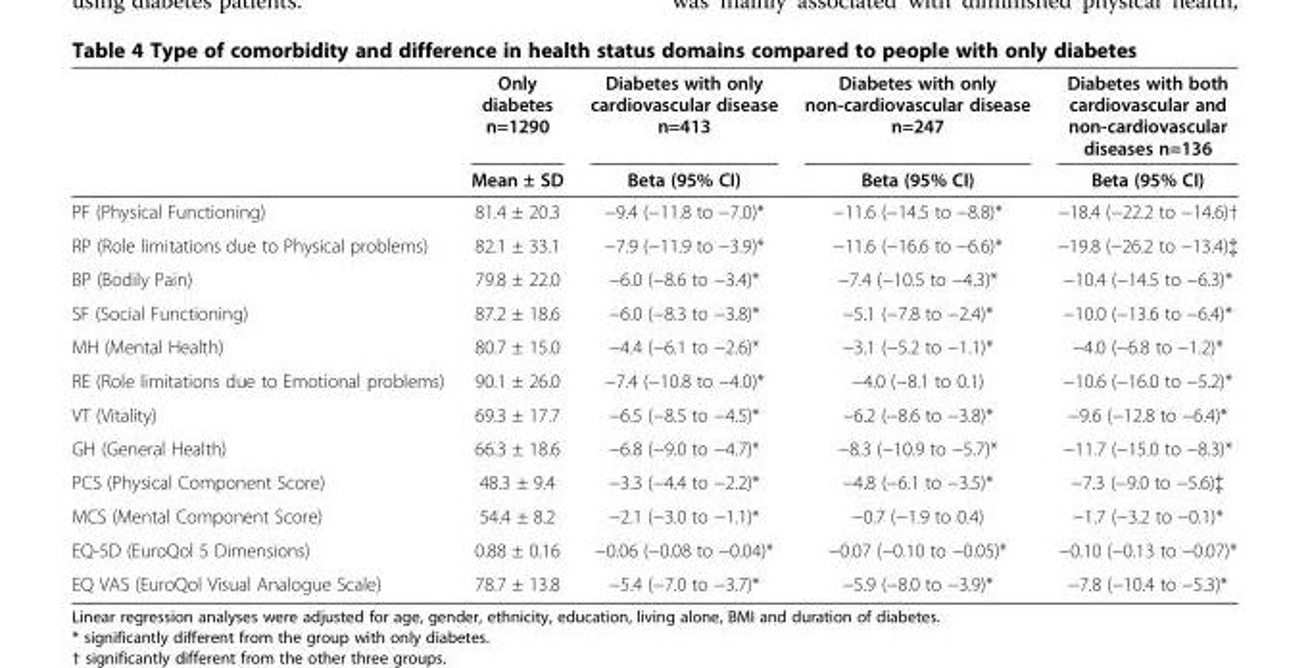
<table><thead><tr><td rowspan="2"></td><td rowspan="2">Only diabetes n=1290 Mean ± SD</td><td rowspan="2">Diabetes with only cardiovascular disease n=413 Beta (95% CI)</td><td rowspan="2">Diabetes with only non-cardiovascular disease n=247 Beta (95% CI)</td><td rowspan="2">Diabetes with both cardiovascular and non-cardiovascular diseases n=136 Beta (95% CI)</td></tr><tr></tr></thead><tbody><tr><td>PF (Physical Functioning)</td><td>81.4 ± 20.3</td><td>−9.4 (−11.8 to −7.0)*</td><td>−11.6 (−14.5 to −8.8)*</td><td>−18.4 (−22.2 to −14.6)†</td></tr><tr><td>RP (Role limitations due to Physical problems)</td><td>82.1 ± 33.1</td><td>−7.9 (−11.9 to −3.9)*</td><td>−11.6 (−16.6 to −6.6)*</td><td>−19.8 (−26.2 to −13.4)‡</td></tr><tr><td>BP (Bodily Pain)</td><td>79.8 ± 22.0</td><td>−6.0 (−8.6 to −3.4)*</td><td>−7.4 (−10.5 to −4.3)*</td><td>−10.4 (−14.5 to −6.3)*</td></tr><tr><td>SF (Social Functioning)</td><td>87.2 ± 18.6</td><td>−6.0 (−8.3 to −3.8)*</td><td>−5.1 (−7.8 to −2.4)*</td><td>−10.0 (−13.6 to −6.4)*</td></tr><tr><td>MH (Mental Health)</td><td>80.7 ± 15.0</td><td>−4.4 (−6.1 to −2.6)*</td><td>−3.1 (−5.2 to −1.1)*</td><td>−4.0 (−6.8 to −1.2)*</td></tr><tr><td>RE (Role limitations due to Emotional problems)</td><td>90.1 ± 26.0</td><td>−7.4 (−10.8 to −4.0)*</td><td>−4.0 (−8.1 to 0.1)</td><td>−10.6 (−16.0 to −5.2)*</td></tr><tr><td>VT (Vitality)</td><td>69.3 ± 17.7</td><td>−6.5 (−8.5 to −4.5)*</td><td>−6.2 (−8.6 to −3.8)*</td><td>−9.6 (−12.8 to −6.4)*</td></tr><tr><td>GH (General Health)</td><td>66.3 ± 18.6</td><td>−6.8 (−9.0 to −4.7)*</td><td>−8.3 (−10.9 to −5.7)*</td><td>−11.7 (−15.0 to −8.3)*</td></tr><tr><td>PCS (Physical Component Score)</td><td>48.3 ± 9.4</td><td>−3.3 (−4.4 to −2.2)*</td><td>−4.8 (−6.1 to −3.5)*</td><td>−7.3 (−9.0 to −5.6)‡</td></tr><tr><td>MCS (Mental Component Score)</td><td>54.4 ± 8.2</td><td>−2.1 (−3.0 to −1.1)*</td><td>−0.7 (−1.9 to 0.4)</td><td>−1.7 (−3.2 to −0.1)*</td></tr><tr><td>EQ-5D (EuroQol 5 Dimensions)</td><td>0.88 ± 0.16</td><td>−0.06 (−0.08 to −0.04)*</td><td>−0.07 (−0.10 to −0.05)*</td><td>−0.10 (−0.13 to −0.07)*</td></tr><tr><td>EQ VAS (EuroQol Visual Analogue Scale)</td><td>78.7 ± 13.8</td><td>−5.4 (−7.0 to −3.7)*</td><td>−5.9 (−8.0 to −3.9)*</td><td>−7.8 (−10.4 to −5.3)*</td></tr></tbody></table>